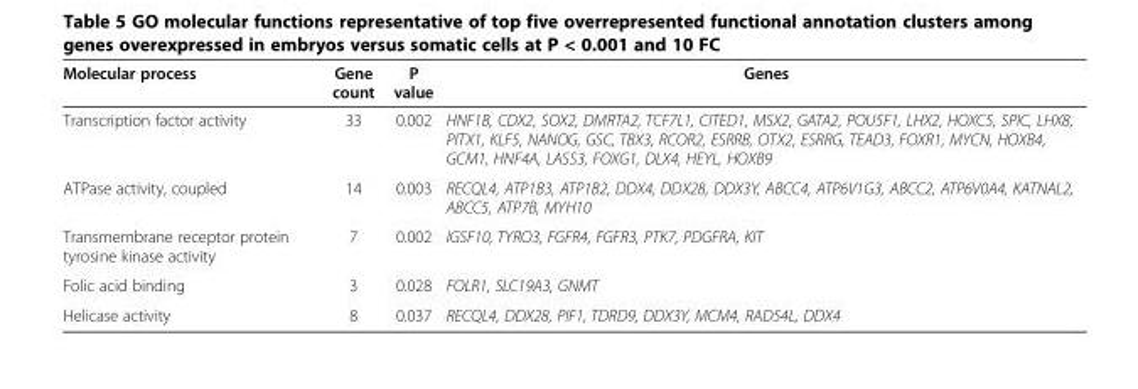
<table><thead><tr><td>Molecular process</td><td>Gene count</td><td>P value</td><td>Genes</td></tr></thead><tbody><tr><td>Transcription factor activity</td><td>33</td><td>0.002</td><td>HNF1B, CDX2, SOX2, DMRTA2, TCF7L1, CITED1, MSX2, GATA2, POU5F1, LHX2, HOXC5, SPIC, LHX8, PITX1, KLF5, NANOG, GSC, TBX3, RCOR2, ESRRB, OTX2, ESRRG, TEAD3, FOXR1, MYCN, HOXB4, GCM1, HNF4A, LASS3, FOXG1, DLX4, HEYL, HOXB9</td></tr><tr><td>ATPase activity, coupled</td><td>14</td><td>0.003</td><td>RECQL4, ATP1B3, ATP1B2, DDX4, DDX28, DDX3Y, ABCC4, ATP6V1G3, ABCC2, ATP6V0A4, KATNAL2, ABCC5, ATP7B, MYH10</td></tr><tr><td>Transmembrane receptor protein tyrosine kinase activity</td><td>7</td><td>0.002</td><td>IGSF10, TYRO3, FGFR4, FGFR3, PTK7, PDGFRA, KIT</td></tr><tr><td>Folic acid binding</td><td>3</td><td>0.028</td><td>FOLR1, SLC19A3, GNMT</td></tr><tr><td>Helicase activity</td><td>8</td><td>0.037</td><td>RECQL4, DDX28, PIF1, TDRD9, DDX3Y, MCM4, RAD54L, DDX4</td></tr></tbody></table>